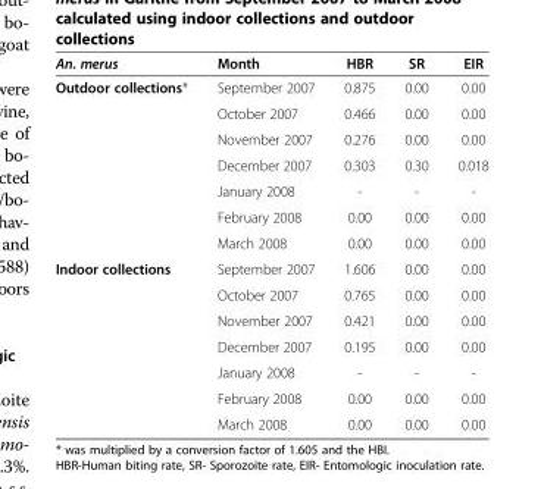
<table><thead><tr><td>An. merus</td><td>Month</td><td>HBR</td><td>SR</td><td>EIR</td></tr></thead><tbody><tr><td rowspan="7">Outdoor collections*</td><td>September 2007</td><td>0.875</td><td>0.00</td><td>0.00</td></tr><tr><td>October 2007</td><td>0.466</td><td>0.00</td><td>0.00</td></tr><tr><td>November 2007</td><td>0.276</td><td>0.00</td><td>0.00</td></tr><tr><td>December 2007</td><td>0.303</td><td>0.30</td><td>0.018</td></tr><tr><td>January 2008</td><td>-</td><td>-</td><td>-</td></tr><tr><td>February 2008</td><td>0.00</td><td>0.00</td><td>0.00</td></tr><tr><td>March 2008</td><td>0.00</td><td>0.00</td><td>0.00</td></tr><tr><td rowspan="7">Indoor collections</td><td>September 2007</td><td>1.606</td><td>0.00</td><td>0.00</td></tr><tr><td>October 2007</td><td>0.765</td><td>0.00</td><td>0.00</td></tr><tr><td>November 2007</td><td>0.421</td><td>0.00</td><td>0.00</td></tr><tr><td>December 2007</td><td>0.195</td><td>0.00</td><td>0.00</td></tr><tr><td>January 2008</td><td>-</td><td>-</td><td>-</td></tr><tr><td>February 2008</td><td>0.00</td><td>0.00</td><td>0.00</td></tr><tr><td>March 2008</td><td>0.00</td><td>0.00</td><td>0.00</td></tr></tbody></table>